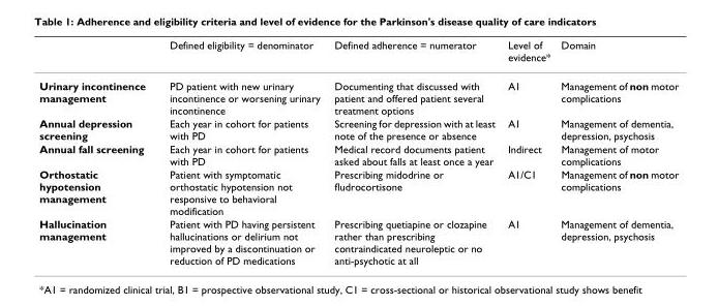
<table><thead><tr><td></td><td>Defined eligibility = denominator</td><td>Defined adherence = numerator</td><td>Level of evidence*</td><td>Domain</td></tr></thead><tbody><tr><td>Urinary incontinence management</td><td>PD patient with new urinary incontinence or worsening urinary incontinence</td><td>Documenting that discussed with patient and offered patient several treatment options</td><td>A1</td><td>Management of non motor complications</td></tr><tr><td>Annual depression screening</td><td>Each year in cohort for patients with PD</td><td>Screening for depression with at least note of the presence or absence</td><td>A1</td><td>Management of dementia, depression, psychosis</td></tr><tr><td>Annual fall screening</td><td>Each year in cohort for patients with PD</td><td>Medical record documents patient asked about falls at least once a year</td><td>Indirect</td><td>Management of motor complications</td></tr><tr><td>Orthostatic hypotension management</td><td>Patient with symptomatic orthostatic hypotension not responsive to behavioral modification</td><td>Prescribing midodrine or fludrocortisone</td><td>A1/C1</td><td>Management of non motor complications</td></tr><tr><td>Hallucination management</td><td>Patient with PD having persistent hallucinations or delirium not improved by a discontinuation or reduction of PD medications</td><td>Prescribing quetiapine or clozapine rather than prescribing contraindicated neuroleptic or no anti-psychotic at all</td><td>A1</td><td>Management of dementia, depression, psychosis</td></tr></tbody></table>